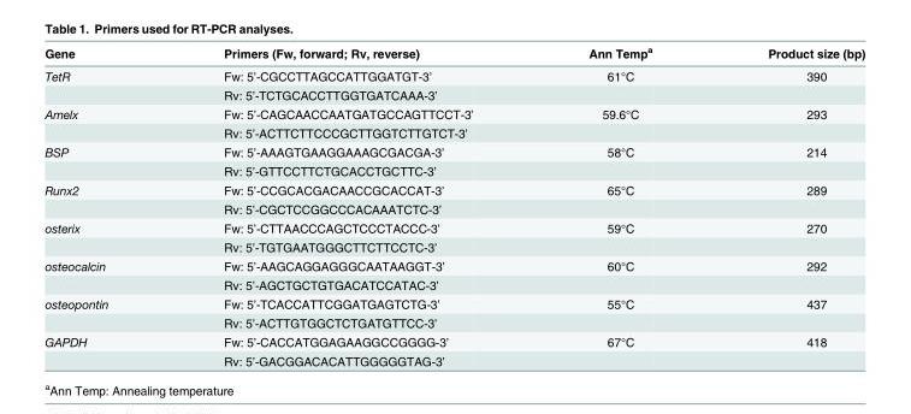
<table><thead><tr><td>Gene</td><td>Primers (Fw, forward; Rv, reverse)</td><td>Ann Temp<sup>a</sup></td><td>Product size (bp)</td></tr></thead><tbody><tr><td rowspan="2">TetR</td><td>Fw: 5’-CGCCTTAGCCATTGGATGT-3’</td><td>61°C</td><td>390</td></tr><tr><td>Rv: 5’-TCTGCACCTTGGTGATCAAA-3’</td><td></td><td></td></tr><tr><td rowspan="2">Amelx</td><td>Fw: 5’-CAGCAACCAATGATGCCAGTTCCT-3’</td><td>59.6°C</td><td>293</td></tr><tr><td>Rv: 5’-ACTTCTTCCCGCTTGGTCTTGTCT-3’</td><td></td><td></td></tr><tr><td rowspan="2">BSP</td><td>Fw: 5’-AAAGTGAAGGAAAGCGACGA-3’</td><td>58°C</td><td>214</td></tr><tr><td>Rv: 5’-GTTCCTTCTGCACCTGCTTC-3’</td><td></td><td></td></tr><tr><td rowspan="2">Runx2</td><td>Fw: 5’-CCGCACGACAACCGCACCAT-3’</td><td>65°C</td><td>289</td></tr><tr><td>Rv: 5’-CGCTCCGGCCCACAAATCTC-3’</td><td></td><td></td></tr><tr><td rowspan="2">osterix</td><td>Fw: 5’-CTTAACCCAGCTCCCTACCC-3’</td><td>59°C</td><td>270</td></tr><tr><td>Rv: 5’-TGTGAATGGGCTTCTTCCTC-3’</td><td></td><td></td></tr><tr><td rowspan="2">osteocalcin</td><td>Fw: 5’-AAGCAGGAGGGCAATAAGGT-3’</td><td>60°C</td><td>292</td></tr><tr><td>Rv: 5’-AGCTGCTGTGACATCCATAC-3’</td><td></td><td></td></tr><tr><td rowspan="2">osteopontin</td><td>Fw: 5’-TCACCATTCGGATGAGTCTG-3’</td><td>55°C</td><td>437</td></tr><tr><td>Rv: 5’-ACTTGTGGCTCTGATGTTCC-3’</td><td></td><td></td></tr><tr><td rowspan="2">GAPDH</td><td>Fw: 5’-CACCATGGAGAAGGCCGGGG-3’</td><td>67°C</td><td>418</td></tr><tr><td>Rv: 5’-GACGGACACATTGGGGGTAG-3’</td><td></td><td></td></tr></tbody></table>